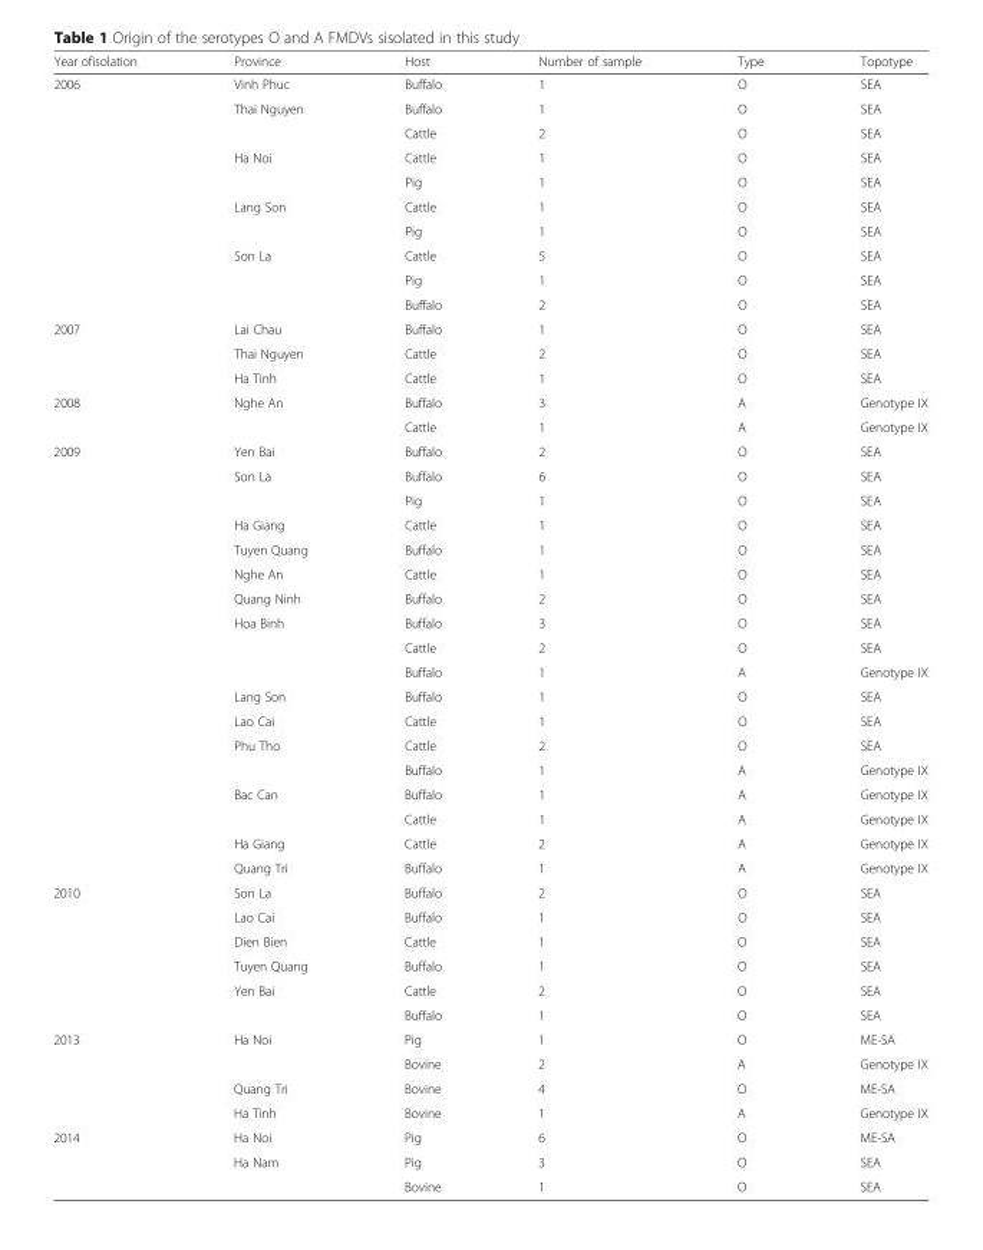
<table><thead><tr><td>Year ofisolation</td><td>Province</td><td>Host</td><td>Number of sample</td><td>Type</td><td>Topotype</td></tr></thead><tbody><tr><td rowspan="10">2006</td><td>Vinh Phuc</td><td>Buffalo</td><td>1</td><td>O</td><td>SEA</td></tr><tr><td rowspan="2">Thai Nguyen</td><td>Buffalo</td><td>1</td><td>O</td><td>SEA</td></tr><tr><td>Cattle</td><td>2</td><td>O</td><td>SEA</td></tr><tr><td rowspan="2">Ha Noi</td><td>Cattle</td><td>1</td><td>O</td><td>SEA</td></tr><tr><td>Pig</td><td>1</td><td>O</td><td>SEA</td></tr><tr><td rowspan="2">Lang Son</td><td>Cattle</td><td>1</td><td>O</td><td>SEA</td></tr><tr><td>Pig</td><td>1</td><td>O</td><td>SEA</td></tr><tr><td rowspan="3">Son La</td><td>Cattle</td><td>5</td><td>O</td><td>SEA</td></tr><tr><td>Pig</td><td>1</td><td>O</td><td>SEA</td></tr><tr><td>Buffalo</td><td>2</td><td>O</td><td>SEA</td></tr><tr><td rowspan="3">2007</td><td>Lai Chau</td><td>Buffalo</td><td>1</td><td>O</td><td>SEA</td></tr><tr><td>Thai Nguyen</td><td>Cattle</td><td>2</td><td>O</td><td>SEA</td></tr><tr><td>Ha Tinh</td><td>Cattle</td><td>1</td><td>O</td><td>SEA</td></tr><tr><td rowspan="2">2008</td><td rowspan="2">Nghe An</td><td>Buffalo</td><td>3</td><td>A</td><td>Genotype IX</td></tr><tr><td>Cattle</td><td>1</td><td>A</td><td>Genotype IX</td></tr><tr><td rowspan="18">2009</td><td>Yen Bai</td><td>Buffalo</td><td>2</td><td>O</td><td>SEA</td></tr><tr><td rowspan="2">Son La</td><td>Buffalo</td><td>6</td><td>O</td><td>SEA</td></tr><tr><td>Pig</td><td>1</td><td>O</td><td>SEA</td></tr><tr><td>Ha Giang</td><td>Cattle</td><td>1</td><td>O</td><td>SEA</td></tr><tr><td>Tuyen Quang</td><td>Buffalo</td><td>1</td><td>O</td><td>SEA</td></tr><tr><td>Nghe An</td><td>Cattle</td><td>1</td><td>O</td><td>SEA</td></tr><tr><td>Quang Ninh</td><td>Buffalo</td><td>2</td><td>O</td><td>SEA</td></tr><tr><td rowspan="3">Hoa Binh</td><td>Buffalo</td><td>3</td><td>O</td><td>SEA</td></tr><tr><td>Cattle</td><td>2</td><td>O</td><td>SEA</td></tr><tr><td>Buffalo</td><td>1</td><td>A</td><td>Genotype IX</td></tr><tr><td>Lang Son</td><td>Buffalo</td><td>1</td><td>O</td><td>SEA</td></tr><tr><td>Lao Cai</td><td>Cattle</td><td>1</td><td>O</td><td>SEA</td></tr><tr><td rowspan="2">Phu Tho</td><td>Cattle</td><td>2</td><td>O</td><td>SEA</td></tr><tr><td>Buffalo</td><td>1</td><td>A</td><td>Genotype IX</td></tr><tr><td rowspan="2">Bac Can</td><td>Buffalo</td><td>1</td><td>A</td><td>Genotype IX</td></tr><tr><td>Cattle</td><td>1</td><td>A</td><td>Genotype IX</td></tr><tr><td>Ha Giang</td><td>Cattle</td><td>2</td><td>A</td><td>Genotype IX</td></tr><tr><td>Quang Tri</td><td>Buffalo</td><td>1</td><td>A</td><td>Genotype IX</td></tr><tr><td rowspan="6">2010</td><td>Son La</td><td>Buffalo</td><td>2</td><td>O</td><td>SEA</td></tr><tr><td>Lao Cai</td><td>Buffalo</td><td>1</td><td>O</td><td>SEA</td></tr><tr><td>Dien Bien</td><td>Cattle</td><td>1</td><td>O</td><td>SEA</td></tr><tr><td>Tuyen Quang</td><td>Buffalo</td><td>1</td><td>O</td><td>SEA</td></tr><tr><td rowspan="2">Yen Bai</td><td>Cattle</td><td>2</td><td>O</td><td>SEA</td></tr><tr><td>Buffalo</td><td>1</td><td>O</td><td>SEA</td></tr><tr><td rowspan="4">2013</td><td rowspan="2">Ha Noi</td><td>Pig</td><td>1</td><td>O</td><td>ME-SA</td></tr><tr><td>Bovine</td><td>2</td><td>A</td><td>Genotype IX</td></tr><tr><td>Quang Tri</td><td>Bovine</td><td>4</td><td>O</td><td>ME-SA</td></tr><tr><td>Ha Tinh</td><td>Bovine</td><td>1</td><td>A</td><td>Genotype IX</td></tr><tr><td rowspan="3">2014</td><td>Ha Noi</td><td>Pig</td><td>6</td><td>O</td><td>ME-SA</td></tr><tr><td rowspan="2">Ha Nam</td><td>Pig</td><td>3</td><td>O</td><td>SEA</td></tr><tr><td>Bovine</td><td>1</td><td>O</td><td>SEA</td></tr></tbody></table>